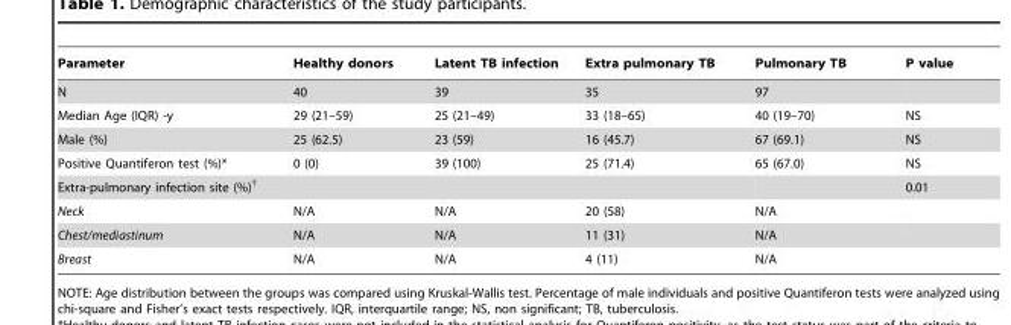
<table><thead><tr><td>Parameter</td><td>Healthy donors</td><td>Latent TB infection</td><td>Extra pulmonary TB</td><td>Pulmonary TB</td><td>P value</td></tr></thead><tbody><tr><td>N</td><td>40</td><td>39</td><td>35</td><td>97</td><td></td></tr><tr><td>Median Age (IQR) -y</td><td>29 (21–59)</td><td>25 (21–49)</td><td>33 (18–65)</td><td>40 (19–70)</td><td>NS</td></tr><tr><td>Male (%)</td><td>25 (62.5)</td><td>23 (59)</td><td>16 (45.7)</td><td>67 (69.1)</td><td>NS</td></tr><tr><td>Positive Quantiferon test (%)*</td><td>0 (0)</td><td>39 (100)</td><td>25 (71.4)</td><td>65 (67.0)</td><td>NS</td></tr><tr><td>Extra-pulmonary infection site (%)†</td><td></td><td></td><td></td><td></td><td>0.01</td></tr><tr><td>Neck</td><td>N/A</td><td>N/A</td><td>20 (58)</td><td>N/A</td><td></td></tr><tr><td>Chest/mediastinum</td><td>N/A</td><td>N/A</td><td>11 (31)</td><td>N/A</td><td></td></tr><tr><td>Breast</td><td>N/A</td><td>N/A</td><td>4 (11)</td><td>N/A</td><td></td></tr></tbody></table>